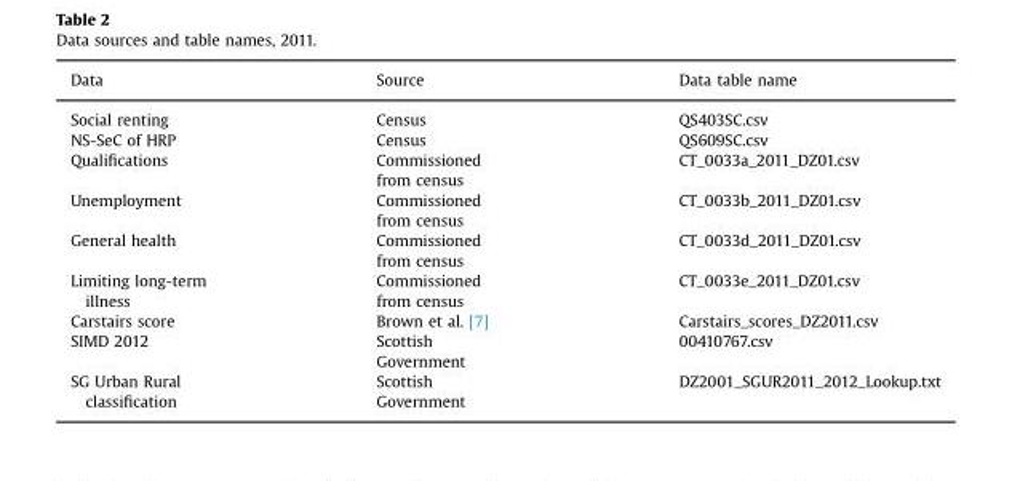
<table><thead><tr><td>Data</td><td>Source</td><td>Data table name</td></tr></thead><tbody><tr><td>Social renting</td><td>Census</td><td>QS403SC.csv</td></tr><tr><td>NS-SeC of HRP</td><td>Census</td><td>QS609SC.csv</td></tr><tr><td>Qualifications</td><td>Commissioned from census</td><td>CT_0033a_2011_DZ01.csv</td></tr><tr><td>Unemployment</td><td>Commissioned from census</td><td>CT_0033b_2011_DZ01.csv</td></tr><tr><td>General health</td><td>Commissioned from census</td><td>CT_0033d_2011_DZ01.csv</td></tr><tr><td>Limiting long-term illness</td><td>Commissioned from census</td><td>CT_0033e_2011_DZ01.csv</td></tr><tr><td>Carstairs score</td><td>Brown et al. [7]</td><td>Carstairs_scores_DZ2011.csv</td></tr><tr><td>SIMD 2012</td><td>Scottish Government</td><td>00410767.csv</td></tr><tr><td>SG Urban Rural classification</td><td>Scottish Government</td><td>DZ2001_SGUR2011_2012_Lookup.txt</td></tr></tbody></table>